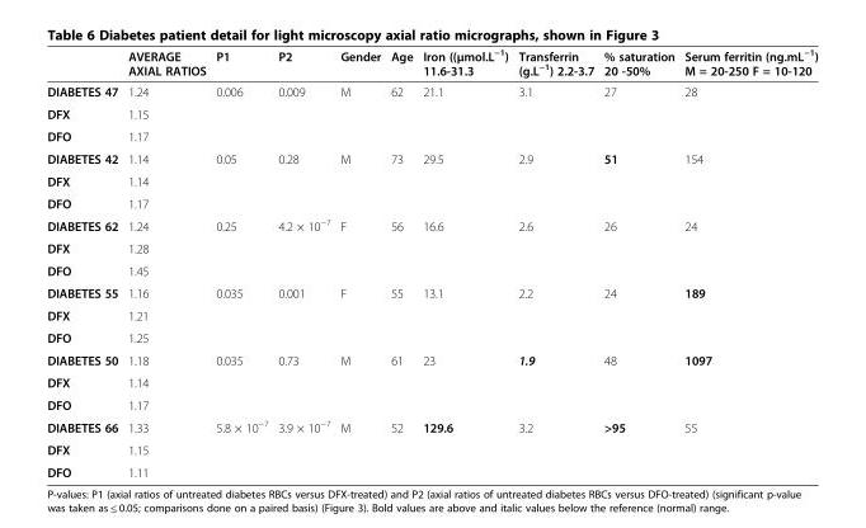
<table><thead><tr><td></td><td>AVERAGE AXIAL RATIOS</td><td>P1</td><td>P2</td><td>Gender</td><td>Age</td><td>Iron ((μmol.L<sup>−1</sup>) 11.6-31.3</td><td>Transferrin (g.L<sup>−1</sup>) 2.2-3.7</td><td>% saturation 20 -50%</td><td>Serum ferritin (ng.mL<sup>−1</sup>) M = 20-250 F = 10-120</td></tr></thead><tbody><tr><td>DIABETES 47</td><td>1.24</td><td>0.006</td><td>0.009</td><td>M</td><td>62</td><td>21.1</td><td>3.1</td><td>27</td><td>28</td></tr><tr><td>DFX</td><td>1.15</td><td></td><td></td><td></td><td></td><td></td><td></td><td></td><td></td></tr><tr><td>DFO</td><td>1.17</td><td></td><td></td><td></td><td></td><td></td><td></td><td></td><td></td></tr><tr><td>DIABETES 42</td><td>1.14</td><td>0.05</td><td>0.28</td><td>M</td><td>73</td><td>29.5</td><td>2.9</td><td>51</td><td>154</td></tr><tr><td>DFX</td><td>1.14</td><td></td><td></td><td></td><td></td><td></td><td></td><td></td><td></td></tr><tr><td>DFO</td><td>1.17</td><td></td><td></td><td></td><td></td><td></td><td></td><td></td><td></td></tr><tr><td>DIABETES 62</td><td>1.24</td><td>0.25</td><td>4.2 × 10<sup>−7</sup></td><td>F</td><td>56</td><td>16.6</td><td>2.6</td><td>26</td><td>24</td></tr><tr><td>DFX</td><td>1.28</td><td></td><td></td><td></td><td></td><td></td><td></td><td></td><td></td></tr><tr><td>DFO</td><td>1.45</td><td></td><td></td><td></td><td></td><td></td><td></td><td></td><td></td></tr><tr><td>DIABETES 55</td><td>1.16</td><td>0.035</td><td>0.001</td><td>F</td><td>55</td><td>13.1</td><td>2.2</td><td>24</td><td>189</td></tr><tr><td>DFX</td><td>1.21</td><td></td><td></td><td></td><td></td><td></td><td></td><td></td><td></td></tr><tr><td>DFO</td><td>1.25</td><td></td><td></td><td></td><td></td><td></td><td></td><td></td><td></td></tr><tr><td>DIABETES 50</td><td>1.18</td><td>0.035</td><td>0.73</td><td>M</td><td>61</td><td>23</td><td>1.9</td><td>48</td><td>1097</td></tr><tr><td>DFX</td><td>1.14</td><td></td><td></td><td></td><td></td><td></td><td></td><td></td><td></td></tr><tr><td>DFO</td><td>1.17</td><td></td><td></td><td></td><td></td><td></td><td></td><td></td><td></td></tr><tr><td>DIABETES 66</td><td>1.33</td><td>5.8 × 10<sup>−7</sup></td><td>3.9 × 10<sup>−7</sup></td><td>M</td><td>52</td><td>129.6</td><td>3.2</td><td>&gt;95</td><td>55</td></tr><tr><td>DFX</td><td>1.15</td><td></td><td></td><td></td><td></td><td></td><td></td><td></td><td></td></tr><tr><td>DFO</td><td>1.11</td><td></td><td></td><td></td><td></td><td></td><td></td><td></td><td></td></tr></tbody></table>